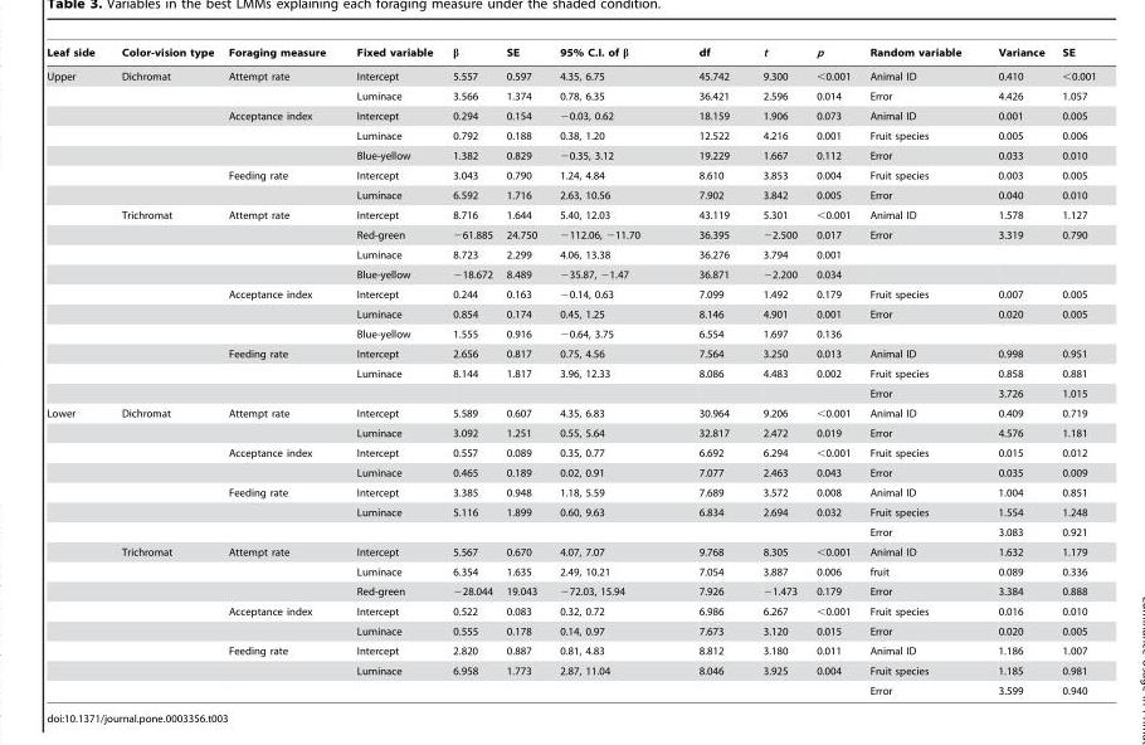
<table><thead><tr><td>Leaf side</td><td>Color-vision type</td><td>Foraging measure</td><td>Fixed variable</td><td>β</td><td>SE</td><td>95% C.I. of β</td><td>df</td><td>t</td><td>p</td><td>Random variable</td><td>Variance</td><td>SE</td></tr></thead><tbody><tr><td rowspan="17">Upper</td><td>Dichromat</td><td>Attempt rate</td><td>Intercept</td><td>5.557</td><td>0.597</td><td>4.35, 6.75</td><td>45.742</td><td>9.300</td><td>&lt;0.001</td><td>Animal ID</td><td>0.410</td><td>&lt;0.001</td></tr><tr><td></td><td></td><td>Luminace</td><td>3.566</td><td>1.374</td><td>0.78, 6.35</td><td>36.421</td><td>2.596</td><td>0.014</td><td>Error</td><td>4.426</td><td>1.057</td></tr><tr><td></td><td>Acceptance index</td><td>Intercept</td><td>0.294</td><td>0.154</td><td>−0.03, 0.62</td><td>18.159</td><td>1.906</td><td>0.073</td><td>Animal ID</td><td>0.001</td><td>0.005</td></tr><tr><td></td><td></td><td>Luminace</td><td>0.792</td><td>0.188</td><td>0.38, 1.20</td><td>12.522</td><td>4.216</td><td>0.001</td><td>Fruit species</td><td>0.005</td><td>0.006</td></tr><tr><td></td><td></td><td>Blue-yellow</td><td>1.382</td><td>0.829</td><td>−0.35, 3.12</td><td>19.229</td><td>1.667</td><td>0.112</td><td>Error</td><td>0.033</td><td>0.010</td></tr><tr><td></td><td>Feeding rate</td><td>Intercept</td><td>3.043</td><td>0.790</td><td>1.24, 4.84</td><td>8.610</td><td>3.853</td><td>0.004</td><td>Fruit species</td><td>0.003</td><td>0.005</td></tr><tr><td></td><td></td><td>Luminace</td><td>6.592</td><td>1.716</td><td>2.63, 10.56</td><td>7.902</td><td>3.842</td><td>0.005</td><td>Error</td><td>0.040</td><td>0.010</td></tr><tr><td>Trichromat</td><td>Attempt rate</td><td>Intercept</td><td>8.716</td><td>1.644</td><td>5.40, 12.03</td><td>43.119</td><td>5.301</td><td>&lt;0.001</td><td>Animal ID</td><td>1.578</td><td>1.127</td></tr><tr><td></td><td></td><td>Red-green</td><td>−61.885</td><td>24.750</td><td>−112.06, −11.70</td><td>36.395</td><td>−2.500</td><td>0.017</td><td>Error</td><td>3.319</td><td>0.790</td></tr><tr><td></td><td></td><td>Luminace</td><td>8.723</td><td>2.299</td><td>4.06, 13.38</td><td>36.276</td><td>3.794</td><td>0.001</td><td></td><td></td><td></td></tr><tr><td></td><td></td><td>Blue-yellow</td><td>−18.672</td><td>8.489</td><td>−35.87, −1.47</td><td>36.871</td><td>−2.200</td><td>0.034</td><td></td><td></td><td></td></tr><tr><td></td><td>Acceptance index</td><td>Intercept</td><td>0.244</td><td>0.163</td><td>−0.14, 0.63</td><td>7.099</td><td>1.492</td><td>0.179</td><td>Fruit species</td><td>0.007</td><td>0.005</td></tr><tr><td></td><td></td><td>Luminace</td><td>0.854</td><td>0.174</td><td>0.45, 1.25</td><td>8.146</td><td>4.901</td><td>0.001</td><td>Error</td><td>0.020</td><td>0.005</td></tr><tr><td></td><td></td><td>Blue-yellow</td><td>1.555</td><td>0.916</td><td>−0.64, 3.75</td><td>6.554</td><td>1.697</td><td>0.136</td><td></td><td></td><td></td></tr><tr><td></td><td>Feeding rate</td><td>Intercept</td><td>2.656</td><td>0.817</td><td>0.75, 4.56</td><td>7.564</td><td>3.250</td><td>0.013</td><td>Animal ID</td><td>0.998</td><td>0.951</td></tr><tr><td></td><td></td><td>Luminace</td><td>8.144</td><td>1.817</td><td>3.96, 12.33</td><td>8.086</td><td>4.483</td><td>0.002</td><td>Fruit species</td><td>0.858</td><td>0.881</td></tr><tr><td></td><td></td><td></td><td></td><td></td><td></td><td></td><td></td><td></td><td>Error</td><td>3.726</td><td>1.015</td></tr><tr><td rowspan="15">Lower</td><td>Dichromat</td><td>Attempt rate</td><td>Intercept</td><td>5.589</td><td>0.607</td><td>4.35, 6.83</td><td>30.964</td><td>9.206</td><td>&lt;0.001</td><td>Animal ID</td><td>0.409</td><td>0.719</td></tr><tr><td></td><td></td><td>Luminace</td><td>3.092</td><td>1.251</td><td>0.55, 5.64</td><td>32.817</td><td>2.472</td><td>0.019</td><td>Error</td><td>4.576</td><td>1.181</td></tr><tr><td></td><td>Acceptance index</td><td>Intercept</td><td>0.557</td><td>0.089</td><td>0.35, 0.77</td><td>6.692</td><td>6.294</td><td>&lt;0.001</td><td>Fruit species</td><td>0.015</td><td>0.012</td></tr><tr><td></td><td></td><td>Luminace</td><td>0.465</td><td>0.189</td><td>0.02, 0.91</td><td>7.077</td><td>2.463</td><td>0.043</td><td>Error</td><td>0.035</td><td>0.009</td></tr><tr><td></td><td>Feeding rate</td><td>Intercept</td><td>3.385</td><td>0.948</td><td>1.18, 5.59</td><td>7.689</td><td>3.572</td><td>0.008</td><td>Animal ID</td><td>1.004</td><td>0.851</td></tr><tr><td></td><td></td><td>Luminace</td><td>5.116</td><td>1.899</td><td>0.60, 9.63</td><td>6.834</td><td>2.694</td><td>0.032</td><td>Fruit species</td><td>1.554</td><td>1.248</td></tr><tr><td></td><td></td><td></td><td></td><td></td><td></td><td></td><td></td><td></td><td>Error</td><td>3.083</td><td>0.921</td></tr><tr><td>Trichromat</td><td>Attempt rate</td><td>Intercept</td><td>5.567</td><td>0.670</td><td>4.07, 7.07</td><td>9.768</td><td>8.305</td><td>&lt;0.001</td><td>Animal ID</td><td>1.632</td><td>1.179</td></tr><tr><td></td><td></td><td>Luminace</td><td>6.354</td><td>1.635</td><td>2.49, 10.21</td><td>7.054</td><td>3.887</td><td>0.006</td><td>fruit</td><td>0.089</td><td>0.336</td></tr><tr><td></td><td></td><td>Red-green</td><td>−28.044</td><td>19.043</td><td>−72.03, 15.94</td><td>7.926</td><td>−1.473</td><td>0.179</td><td>Error</td><td>3.384</td><td>0.888</td></tr><tr><td></td><td>Acceptance index</td><td>Intercept</td><td>0.522</td><td>0.083</td><td>0.32, 0.72</td><td>6.986</td><td>6.267</td><td>&lt;0.001</td><td>Fruit species</td><td>0.016</td><td>0.010</td></tr><tr><td></td><td></td><td>Luminace</td><td>0.555</td><td>0.178</td><td>0.14, 0.97</td><td>7.673</td><td>3.120</td><td>0.015</td><td>Error</td><td>0.020</td><td>0.005</td></tr><tr><td></td><td>Feeding rate</td><td>Intercept</td><td>2.820</td><td>0.887</td><td>0.81, 4.83</td><td>8.812</td><td>3.180</td><td>0.011</td><td>Animal ID</td><td>1.186</td><td>1.007</td></tr><tr><td></td><td></td><td>Luminace</td><td>6.958</td><td>1.773</td><td>2.87, 11.04</td><td>8.046</td><td>3.925</td><td>0.004</td><td>Fruit species</td><td>1.185</td><td>0.981</td></tr><tr><td></td><td></td><td></td><td></td><td></td><td></td><td></td><td></td><td></td><td>Error</td><td>3.599</td><td>0.940</td></tr></tbody></table>